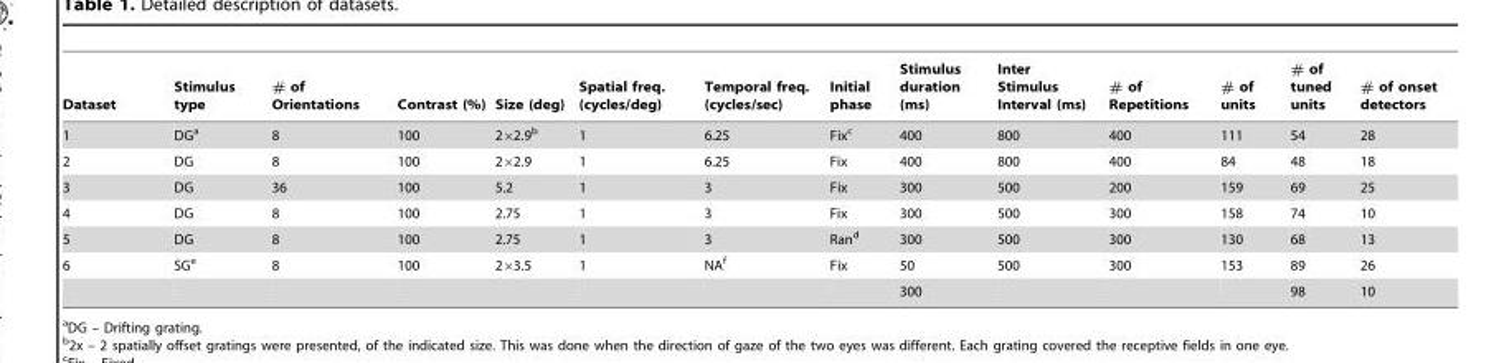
<table><thead><tr><td>Dataset</td><td>Stimulus type</td><td># of Orientations</td><td>Contrast (%)</td><td>Size (deg)</td><td>Spatial freq. (cycles/deg)</td><td>Temporal freq. (cycles/sec)</td><td>Initial phase</td><td>Stimulus duration (ms)</td><td>Inter Stimulus Interval (ms)</td><td># of Repetitions</td><td># of units</td><td># of tuned units</td><td># of onset detectors</td></tr></thead><tbody><tr><td>1</td><td>DG<sup>a</sup></td><td>8</td><td>100</td><td>2×2.9<sup>b</sup></td><td>1</td><td>6.25</td><td>Fix<sup>c</sup></td><td>400</td><td>800</td><td>400</td><td>111</td><td>54</td><td>28</td></tr><tr><td>2</td><td>DG</td><td>8</td><td>100</td><td>2×2.9</td><td>1</td><td>6.25</td><td>Fix</td><td>400</td><td>800</td><td>400</td><td>84</td><td>48</td><td>18</td></tr><tr><td>3</td><td>DG</td><td>36</td><td>100</td><td>5.2</td><td>1</td><td>3</td><td>Fix</td><td>300</td><td>500</td><td>200</td><td>159</td><td>69</td><td>25</td></tr><tr><td>4</td><td>DG</td><td>8</td><td>100</td><td>2.75</td><td>1</td><td>3</td><td>Fix</td><td>300</td><td>500</td><td>300</td><td>158</td><td>74</td><td>10</td></tr><tr><td>5</td><td>DG</td><td>8</td><td>100</td><td>2.75</td><td>1</td><td>3</td><td>Ran<sup>d</sup></td><td>300</td><td>500</td><td>300</td><td>130</td><td>68</td><td>13</td></tr><tr><td rowspan="2">6</td><td>SG<sup>e</sup></td><td>8</td><td>100</td><td>2×3.5</td><td>1</td><td>NA<sup>f</sup></td><td>Fix</td><td>50</td><td>500</td><td>300</td><td>153</td><td>89</td><td>26</td></tr><tr><td></td><td></td><td></td><td></td><td></td><td></td><td></td><td>300</td><td></td><td></td><td></td><td>98</td><td>10</td></tr></tbody></table>